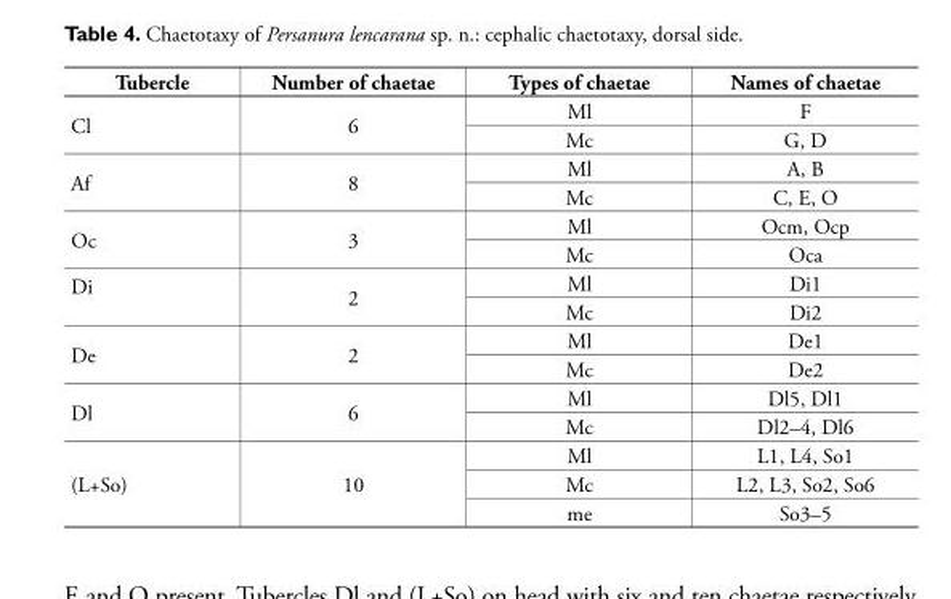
<table><thead><tr><td>Tubercle</td><td>Number of chaetae</td><td>Types of chaetae</td><td>Names of chaetae</td></tr></thead><tbody><tr><td rowspan="2">Cl</td><td rowspan="2">6</td><td>Ml</td><td>F</td></tr><tr><td>Mc</td><td>G, D</td></tr><tr><td rowspan="2">Af</td><td rowspan="2">8</td><td>Ml</td><td>A, B</td></tr><tr><td>Mc</td><td>C, E, O</td></tr><tr><td rowspan="2">Oc</td><td rowspan="2">3</td><td>Ml</td><td>Ocm, Ocp</td></tr><tr><td>Mc</td><td>Oca</td></tr><tr><td rowspan="2">Di</td><td rowspan="2">2</td><td>Ml</td><td>Di1</td></tr><tr><td>Mc</td><td>Di2</td></tr><tr><td rowspan="2">De</td><td rowspan="2">2</td><td>Ml</td><td>De1</td></tr><tr><td>Mc</td><td>De2</td></tr><tr><td rowspan="2">Dl</td><td rowspan="2">6</td><td>Ml</td><td>Dl5, Dl1</td></tr><tr><td>Mc</td><td>Dl2–4, Dl6</td></tr><tr><td rowspan="3">(L+So)</td><td rowspan="3">10</td><td>Ml</td><td>L1, L4, So1</td></tr><tr><td>Mc</td><td>L2, L3, So2, So6</td></tr><tr><td>me</td><td>So3–5</td></tr></tbody></table>